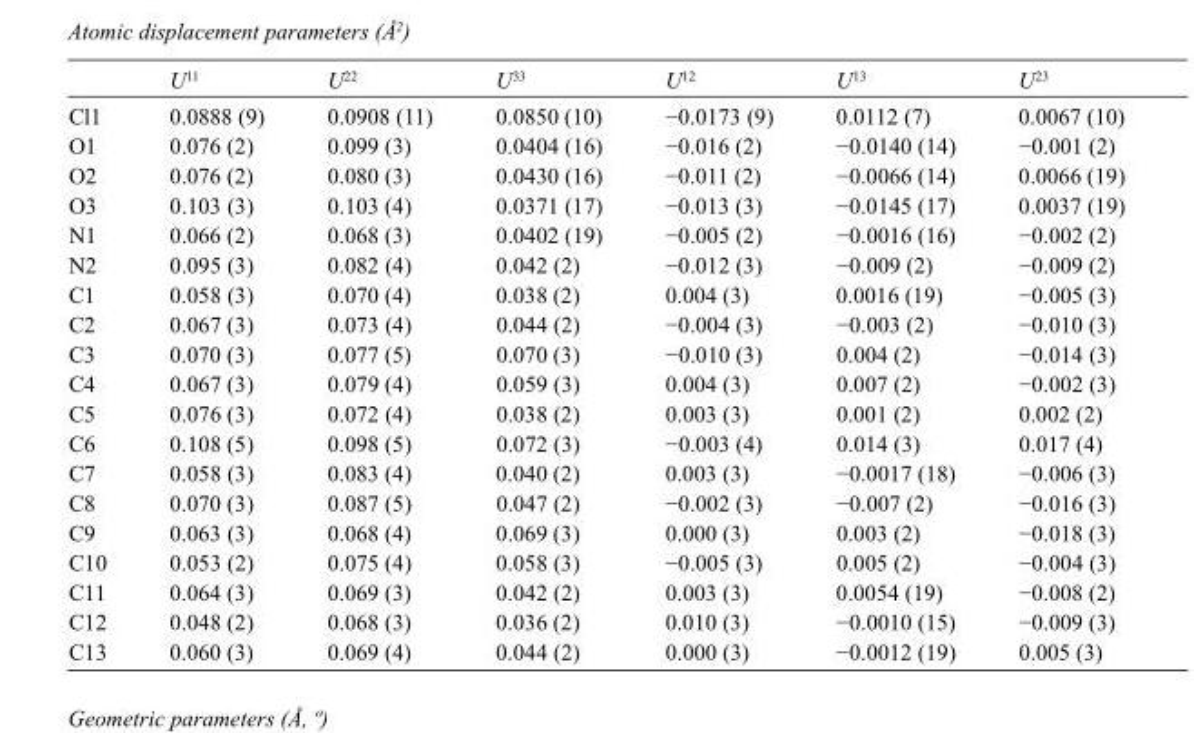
<table><thead><tr><td></td><td>U<sup>11</sup></td><td>U<sup>22</sup></td><td>U<sup>33</sup></td><td>U<sup>12</sup></td><td>U<sup>13</sup></td><td>U<sup>23</sup></td></tr></thead><tbody><tr><td>Cl1</td><td>0.0888 (9)</td><td>0.0908 (11)</td><td>0.0850 (10)</td><td>−0.0173 (9)</td><td>0.0112 (7)</td><td>0.0067 (10)</td></tr><tr><td>O1</td><td>0.076 (2)</td><td>0.099 (3)</td><td>0.0404 (16)</td><td>−0.016 (2)</td><td>−0.0140 (14)</td><td>−0.001 (2)</td></tr><tr><td>O2</td><td>0.076 (2)</td><td>0.080 (3)</td><td>0.0430 (16)</td><td>−0.011 (2)</td><td>−0.0066 (14)</td><td>0.0066 (19)</td></tr><tr><td>O3</td><td>0.103 (3)</td><td>0.103 (4)</td><td>0.0371 (17)</td><td>−0.013 (3)</td><td>−0.0145 (17)</td><td>0.0037 (19)</td></tr><tr><td>N1</td><td>0.066 (2)</td><td>0.068 (3)</td><td>0.0402 (19)</td><td>−0.005 (2)</td><td>−0.0016 (16)</td><td>−0.002 (2)</td></tr><tr><td>N2</td><td>0.095 (3)</td><td>0.082 (4)</td><td>0.042 (2)</td><td>−0.012 (3)</td><td>−0.009 (2)</td><td>−0.009 (2)</td></tr><tr><td>C1</td><td>0.058 (3)</td><td>0.070 (4)</td><td>0.038 (2)</td><td>0.004 (3)</td><td>0.0016 (19)</td><td>−0.005 (3)</td></tr><tr><td>C2</td><td>0.067 (3)</td><td>0.073 (4)</td><td>0.044 (2)</td><td>−0.004 (3)</td><td>−0.003 (2)</td><td>−0.010 (3)</td></tr><tr><td>C3</td><td>0.070 (3)</td><td>0.077 (5)</td><td>0.070 (3)</td><td>−0.010 (3)</td><td>0.004 (2)</td><td>−0.014 (3)</td></tr><tr><td>C4</td><td>0.067 (3)</td><td>0.079 (4)</td><td>0.059 (3)</td><td>0.004 (3)</td><td>0.007 (2)</td><td>−0.002 (3)</td></tr><tr><td>C5</td><td>0.076 (3)</td><td>0.072 (4)</td><td>0.038 (2)</td><td>0.003 (3)</td><td>0.001 (2)</td><td>0.002 (2)</td></tr><tr><td>C6</td><td>0.108 (5)</td><td>0.098 (5)</td><td>0.072 (3)</td><td>−0.003 (4)</td><td>0.014 (3)</td><td>0.017 (4)</td></tr><tr><td>C7</td><td>0.058 (3)</td><td>0.083 (4)</td><td>0.040 (2)</td><td>0.003 (3)</td><td>−0.0017 (18)</td><td>−0.006 (3)</td></tr><tr><td>C8</td><td>0.070 (3)</td><td>0.087 (5)</td><td>0.047 (2)</td><td>−0.002 (3)</td><td>−0.007 (2)</td><td>−0.016 (3)</td></tr><tr><td>C9</td><td>0.063 (3)</td><td>0.068 (4)</td><td>0.069 (3)</td><td>0.000 (3)</td><td>0.003 (2)</td><td>−0.018 (3)</td></tr><tr><td>C10</td><td>0.053 (2)</td><td>0.075 (4)</td><td>0.058 (3)</td><td>−0.005 (3)</td><td>0.005 (2)</td><td>−0.004 (3)</td></tr><tr><td>C11</td><td>0.064 (3)</td><td>0.069 (3)</td><td>0.042 (2)</td><td>0.003 (3)</td><td>0.0054 (19)</td><td>−0.008 (2)</td></tr><tr><td>C12</td><td>0.048 (2)</td><td>0.068 (3)</td><td>0.036 (2)</td><td>0.010 (3)</td><td>−0.0010 (15)</td><td>−0.009 (3)</td></tr><tr><td>C13</td><td>0.060 (3)</td><td>0.069 (4)</td><td>0.044 (2)</td><td>0.000 (3)</td><td>−0.0012 (19)</td><td>0.005 (3)</td></tr></tbody></table>